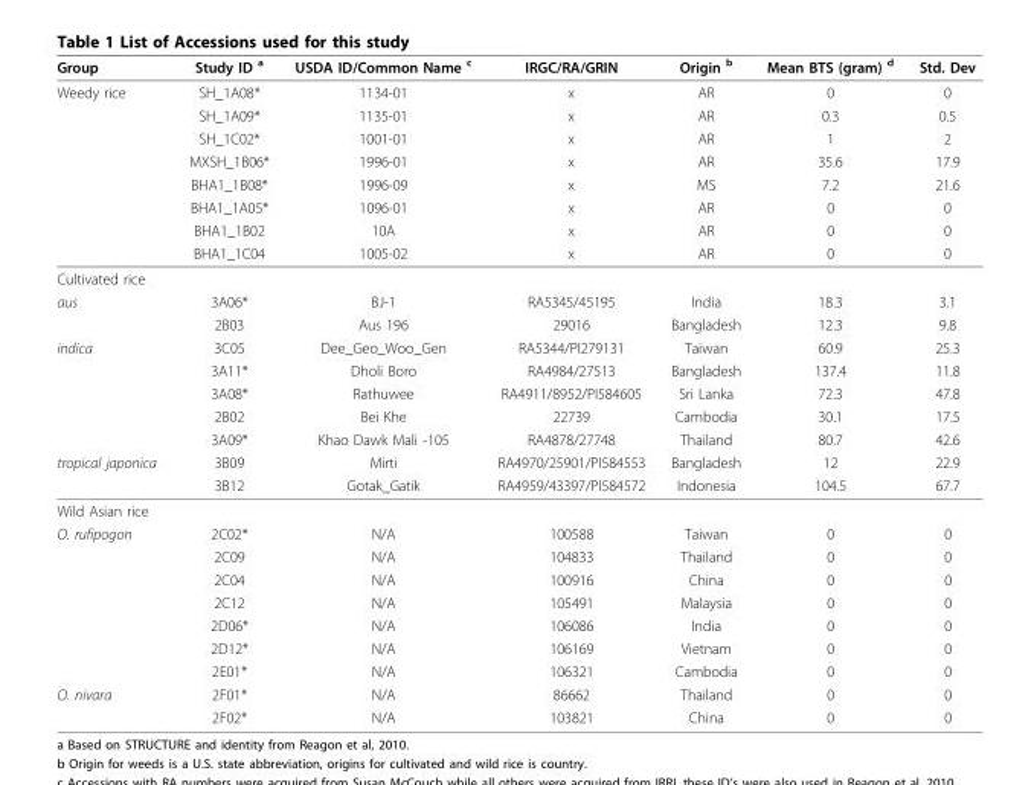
<table><thead><tr><td>Group</td><td>Study ID <sup>a</sup></td><td>USDA ID/Common Name <sup>c</sup></td><td>IRGC/RA/GRIN</td><td>Origin <sup>b</sup></td><td>Mean BTS (gram) <sup>d</sup></td><td>Std. Dev</td></tr></thead><tbody><tr><td rowspan="8">Weedy rice</td><td>SH_1A08*</td><td>1134-01</td><td>x</td><td>AR</td><td>0</td><td>0</td></tr><tr><td>SH_1A09*</td><td>1135-01</td><td>x</td><td>AR</td><td>0.3</td><td>0.5</td></tr><tr><td>SH_1C02*</td><td>1001-01</td><td>x</td><td>AR</td><td>1</td><td>2</td></tr><tr><td>MXSH_1B06*</td><td>1996-01</td><td>x</td><td>AR</td><td>35.6</td><td>17.9</td></tr><tr><td>BHA1_1B08*</td><td>1996-09</td><td>x</td><td>MS</td><td>7.2</td><td>21.6</td></tr><tr><td>BHA1_1A05*</td><td>1096-01</td><td>x</td><td>AR</td><td>0</td><td>0</td></tr><tr><td>BHA1_1B02</td><td>10A</td><td>x</td><td>AR</td><td>0</td><td>0</td></tr><tr><td>BHA1_1C04</td><td>1005-02</td><td>x</td><td>AR</td><td>0</td><td>0</td></tr><tr><td colspan="7">Cultivated rice</td></tr><tr><td rowspan="2">aus</td><td>3A06*</td><td>BJ-1</td><td>RA5345/45195</td><td>India</td><td>18.3</td><td>3.1</td></tr><tr><td>2B03</td><td>Aus 196</td><td>29016</td><td>Bangladesh</td><td>12.3</td><td>9.8</td></tr><tr><td rowspan="5">indica</td><td>3C05</td><td>Dee_Geo_Woo_Gen</td><td>RA5344/PI279131</td><td>Taiwan</td><td>60.9</td><td>25.3</td></tr><tr><td>3A11*</td><td>Dholi Boro</td><td>RA4984/27513</td><td>Bangladesh</td><td>137.4</td><td>11.8</td></tr><tr><td>3A08*</td><td>Rathuwee</td><td>RA4911/8952/PI584605</td><td>Sri Lanka</td><td>72.3</td><td>47.8</td></tr><tr><td>2B02</td><td>Bei Khe</td><td>22739</td><td>Cambodia</td><td>30.1</td><td>17.5</td></tr><tr><td>3A09*</td><td>Khao Dawk Mali -105</td><td>RA4878/27748</td><td>Thailand</td><td>80.7</td><td>42.6</td></tr><tr><td rowspan="2">tropical japonica</td><td>3B09</td><td>Mirti</td><td>RA4970/25901/PI584553</td><td>Bangladesh</td><td>12</td><td>22.9</td></tr><tr><td>3B12</td><td>Gotak_Gatik</td><td>RA4959/43397/PI584572</td><td>Indonesia</td><td>104.5</td><td>67.7</td></tr><tr><td colspan="7">Wild Asian rice</td></tr><tr><td rowspan="7">O. rufipogon</td><td>2C02*</td><td>N/A</td><td>100588</td><td>Taiwan</td><td>0</td><td>0</td></tr><tr><td>2C09</td><td>N/A</td><td>104833</td><td>Thailand</td><td>0</td><td>0</td></tr><tr><td>2C04</td><td>N/A</td><td>100916</td><td>China</td><td>0</td><td>0</td></tr><tr><td>2C12</td><td>N/A</td><td>105491</td><td>Malaysia</td><td>0</td><td>0</td></tr><tr><td>2D06*</td><td>N/A</td><td>106086</td><td>India</td><td>0</td><td>0</td></tr><tr><td>2D12*</td><td>N/A</td><td>106169</td><td>Vietnam</td><td>0</td><td>0</td></tr><tr><td>2E01*</td><td>N/A</td><td>106321</td><td>Cambodia</td><td>0</td><td>0</td></tr><tr><td rowspan="2">O. nivara</td><td>2F01*</td><td>N/A</td><td>86662</td><td>Thailand</td><td>0</td><td>0</td></tr><tr><td>2F02*</td><td>N/A</td><td>103821</td><td>China</td><td>0</td><td>0</td></tr></tbody></table>